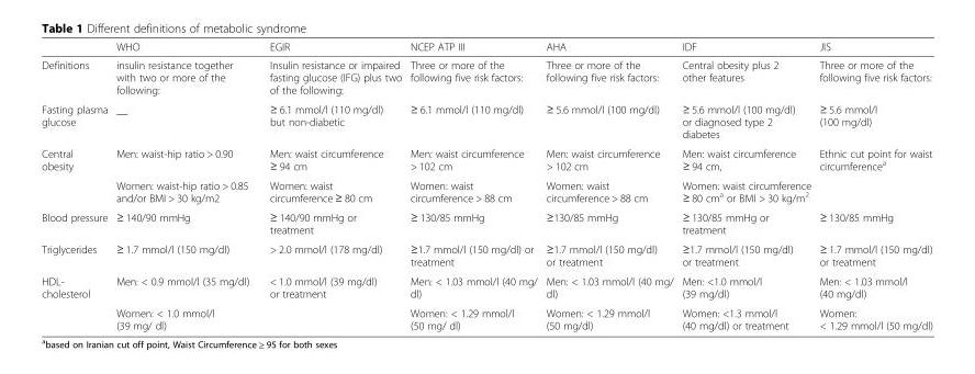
<table><thead><tr><td></td><td>WHO</td><td>EGIR</td><td>NCEP ATP III</td><td>AHA</td><td>IDF</td><td>JIS</td></tr></thead><tbody><tr><td>Definitions</td><td>insulin resistance together with two or more of the following:</td><td>Insulin resistance or impaired fasting glucose (IFG) plus two of the following:</td><td>Three or more of the following five risk factors:</td><td>Three or more of the following five risk factors:</td><td>Central obesity plus 2 other features</td><td>Three or more of the following five risk factors:</td></tr><tr><td>Fasting plasma glucose</td><td>__</td><td>≥ 6.1 mmol/l (110 mg/dl) but non-diabetic</td><td>≥ 6.1 mmol/l (110 mg/dl)</td><td>≥ 5.6 mmol/l (100 mg/dl)</td><td>≥ 5.6 mmol/l (100 mg/dl) or diagnosed type 2 diabetes</td><td>≥ 5.6 mmol/l (100 mg/dl)</td></tr><tr><td rowspan="2">Central obesity</td><td>Men: waist-hip ratio &gt; 0.90</td><td>Men: waist circumference ≥ 94 cm</td><td>Men: waist circumference &gt; 102 cm</td><td>Men: waist circumference &gt; 102 cm</td><td>Men: waist circumference ≥ 94 cm,</td><td rowspan="2">Ethnic cut point for waist circumference<sup>a</sup></td></tr><tr><td>Women: waist-hip ratio &gt; 0.85 and/or BMI &gt; 30 kg/m2</td><td>Women: waist circumference ≥ 80 cm</td><td>Women: waist circumference &gt; 88 cm</td><td>Women: waist circumference &gt; 88 cm</td><td>Women: waist circumference ≥ 80 cm<sup>a</sup> or BMI &gt; 30 kg/m<sup>2</sup></td></tr><tr><td>Blood pressure</td><td>≥ 140/90 mmHg</td><td>≥ 140/90 mmHg or treatment</td><td>≥ 130/85 mmHg</td><td>≥130/85 mmHg</td><td>≥ 130/85 mmHg or treatment</td><td>≥ 130/85 mmHg</td></tr><tr><td>Triglycerides</td><td>≥ 1.7 mmol/l (150 mg/dl)</td><td>&gt; 2.0 mmol/l (178 mg/dl)</td><td>≥1.7 mmol/l (150 mg/dl) or treatment</td><td>≥1.7 mmol/l (150 mg/dl) or treatment</td><td>≥1.7 mmol/l (150 mg/dl) or treatment</td><td>≥ 1.7 mmol/l (150 mg/dl) or treatment</td></tr><tr><td rowspan="2">HDL- cholesterol</td><td>Men: &lt; 0.9 mmol/l (35 mg/dl)</td><td rowspan="2">&lt; 1.0 mmol/l (39 mg/dl) or treatment</td><td>Men: &lt; 1.03 mmol/l (40 mg/ dl)</td><td>Men: &lt; 1.03 mmol/l (40 mg/ dl)</td><td>Men: &lt;1.0 mmol/l (39 mg/dl)</td><td>Men: &lt; 1.03 mmol/l (40 mg/dl)</td></tr><tr><td>Women: &lt; 1.0 mmol/l (39 mg/ dl)</td><td>Women: &lt; 1.29 mmol/l (50 mg/ dl)</td><td>Women: &lt; 1.29 mmol/l (50 mg/dl)</td><td>Women: &lt;1.3 mmol/l (40 mg/dl) or treatment</td><td>Women: &lt; 1.29 mmol/l (50 mg/dl)</td></tr></tbody></table>